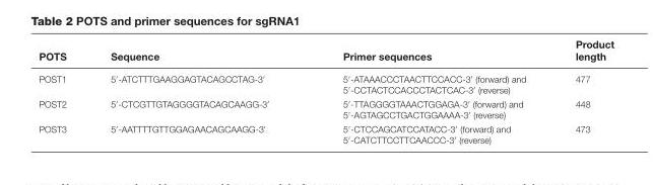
<table><thead><tr><td>POTS</td><td>Sequence</td><td>Primer sequences</td><td>Product length</td></tr></thead><tbody><tr><td>POST1</td><td>5′-ATCTTTGAAGGAGTACAGCCTAG-3′</td><td>5′-ATAAACCCTAACTTCCACC-3′ (forward) and 5′-CCTACTCCACCCTACTCAC-3′ (reverse)</td><td>477</td></tr><tr><td>POST2</td><td>5′-CTCGTTGTAGGGGTACAGCAAGG-3′</td><td>5′-TTAGGGGTAAACTGGAGA-3′ (forward) and 5′-AGTAGCCTGACTGGAAAA-3′ (reverse)</td><td>448</td></tr><tr><td>POST3</td><td>5′-AATTTTGTTGGAGAACAGCAAGG-3′</td><td>5′-CTCCAGCATCCATACC-3′ (forward) and 5′-CATCTTCCTTCAACCC-3′ (reverse)</td><td>473</td></tr></tbody></table>